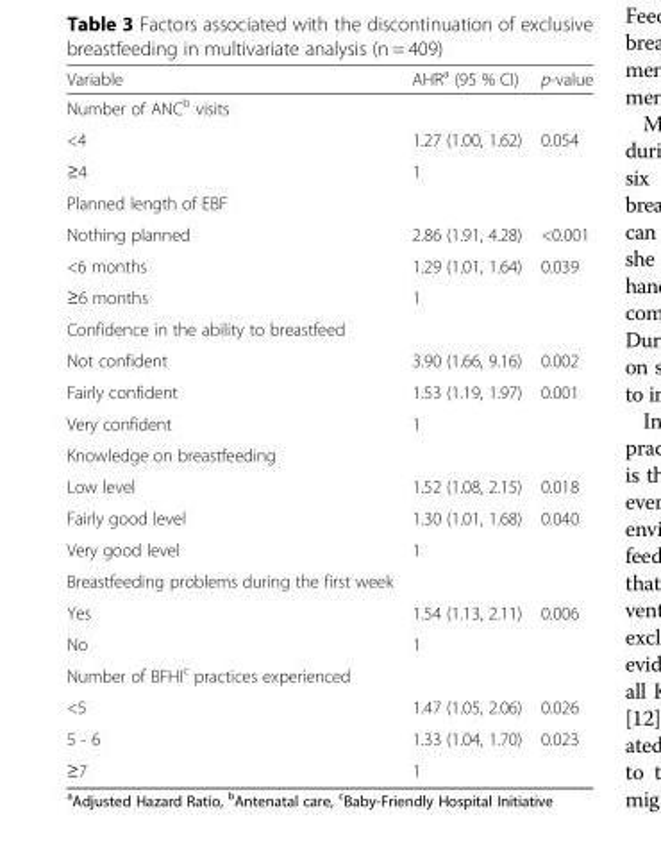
<table><thead><tr><td>Variable</td><td>AHR<sup>a</sup> (95 % CI)</td><td>p-value</td></tr></thead><tbody><tr><td colspan="3">Number of ANC<sup>b</sup> visits</td></tr><tr><td>&lt;4</td><td>1.27 (1.00, 1.62)</td><td>0.054</td></tr><tr><td>≥4</td><td>1</td><td></td></tr><tr><td colspan="3">Planned length of EBF</td></tr><tr><td>Nothing planned</td><td>2.86 (1.91, 4.28)</td><td>&lt;0.001</td></tr><tr><td>&lt;6 months</td><td>1.29 (1.01, 1.64)</td><td>0.039</td></tr><tr><td>≥6 months</td><td>1</td><td></td></tr><tr><td colspan="3">Confidence in the ability to breastfeed</td></tr><tr><td>Not confident</td><td>3.90 (1.66, 9.16)</td><td>0.002</td></tr><tr><td>Fairly confident</td><td>1.53 (1.19, 1.97)</td><td>0.001</td></tr><tr><td>Very confident</td><td>1</td><td></td></tr><tr><td colspan="3">Knowledge on breastfeeding</td></tr><tr><td>Low level</td><td>1.52 (1.08, 2.15)</td><td>0.018</td></tr><tr><td>Fairly good level</td><td>1.30 (1.01, 1.68)</td><td>0.040</td></tr><tr><td>Very good level</td><td>1</td><td></td></tr><tr><td colspan="3">Breastfeeding problems during the first week</td></tr><tr><td>Yes</td><td>1.54 (1.13, 2.11)</td><td>0.006</td></tr><tr><td>No</td><td>1</td><td></td></tr><tr><td colspan="3">Number of BFHI<sup>c</sup> practices experienced</td></tr><tr><td>&lt;5</td><td>1.47 (1.05, 2.06)</td><td>0.026</td></tr><tr><td>5 - 6</td><td>1.33 (1.04, 1.70)</td><td>0.023</td></tr><tr><td>≥7</td><td>1</td><td></td></tr></tbody></table>